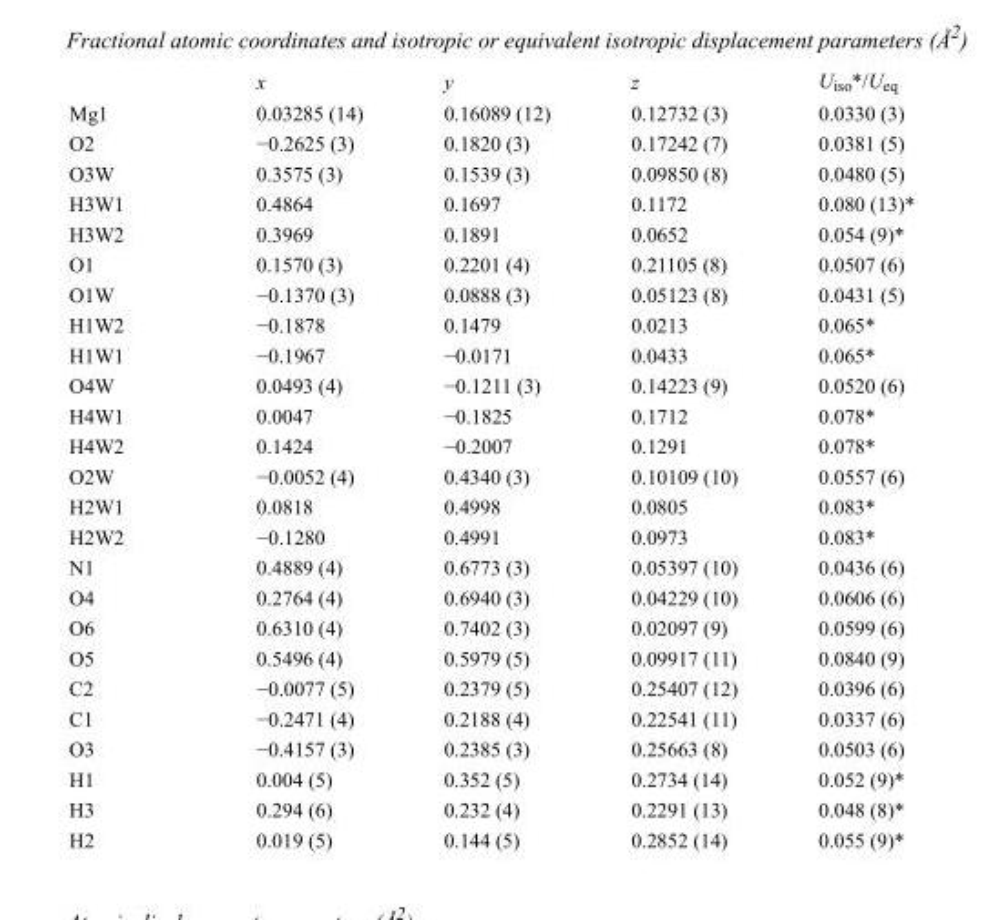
<table><thead><tr><td></td><td>x</td><td>y</td><td>z</td><td>U<sub>iso</sub>*/U<sub>eq</sub></td></tr></thead><tbody><tr><td>Mg1</td><td>0.03285 (14)</td><td>0.16089 (12)</td><td>0.12732 (3)</td><td>0.0330 (3)</td></tr><tr><td>O2</td><td>−0.2625 (3)</td><td>0.1820 (3)</td><td>0.17242 (7)</td><td>0.0381 (5)</td></tr><tr><td>O3W</td><td>0.3575 (3)</td><td>0.1539 (3)</td><td>0.09850 (8)</td><td>0.0480 (5)</td></tr><tr><td>H3W1</td><td>0.4864</td><td>0.1697</td><td>0.1172</td><td>0.080 (13)*</td></tr><tr><td>H3W2</td><td>0.3969</td><td>0.1891</td><td>0.0652</td><td>0.054 (9)*</td></tr><tr><td>O1</td><td>0.1570 (3)</td><td>0.2201 (4)</td><td>0.21105 (8)</td><td>0.0507 (6)</td></tr><tr><td>O1W</td><td>−0.1370 (3)</td><td>0.0888 (3)</td><td>0.05123 (8)</td><td>0.0431 (5)</td></tr><tr><td>H1W2</td><td>−0.1878</td><td>0.1479</td><td>0.0213</td><td>0.065*</td></tr><tr><td>H1W1</td><td>−0.1967</td><td>−0.0171</td><td>0.0433</td><td>0.065*</td></tr><tr><td>O4W</td><td>0.0493 (4)</td><td>−0.1211 (3)</td><td>0.14223 (9)</td><td>0.0520 (6)</td></tr><tr><td>H4W1</td><td>0.0047</td><td>−0.1825</td><td>0.1712</td><td>0.078*</td></tr><tr><td>H4W2</td><td>0.1424</td><td>−0.2007</td><td>0.1291</td><td>0.078*</td></tr><tr><td>O2W</td><td>−0.0052 (4)</td><td>0.4340 (3)</td><td>0.10109 (10)</td><td>0.0557 (6)</td></tr><tr><td>H2W1</td><td>0.0818</td><td>0.4998</td><td>0.0805</td><td>0.083*</td></tr><tr><td>H2W2</td><td>−0.1280</td><td>0.4991</td><td>0.0973</td><td>0.083*</td></tr><tr><td>N1</td><td>0.4889 (4)</td><td>0.6773 (3)</td><td>0.05397 (10)</td><td>0.0436 (6)</td></tr><tr><td>O4</td><td>0.2764 (4)</td><td>0.6940 (3)</td><td>0.04229 (10)</td><td>0.0606 (6)</td></tr><tr><td>O6</td><td>0.6310 (4)</td><td>0.7402 (3)</td><td>0.02097 (9)</td><td>0.0599 (6)</td></tr><tr><td>O5</td><td>0.5496 (4)</td><td>0.5979 (5)</td><td>0.09917 (11)</td><td>0.0840 (9)</td></tr><tr><td>C2</td><td>−0.0077 (5)</td><td>0.2379 (5)</td><td>0.25407 (12)</td><td>0.0396 (6)</td></tr><tr><td>C1</td><td>−0.2471 (4)</td><td>0.2188 (4)</td><td>0.22541 (11)</td><td>0.0337 (6)</td></tr><tr><td>O3</td><td>−0.4157 (3)</td><td>0.2385 (3)</td><td>0.25663 (8)</td><td>0.0503 (6)</td></tr><tr><td>H1</td><td>0.004 (5)</td><td>0.352 (5)</td><td>0.2734 (14)</td><td>0.052 (9)*</td></tr><tr><td>H3</td><td>0.294 (6)</td><td>0.232 (4)</td><td>0.2291 (13)</td><td>0.048 (8)*</td></tr><tr><td>H2</td><td>0.019 (5)</td><td>0.144 (5)</td><td>0.2852 (14)</td><td>0.055 (9)*</td></tr></tbody></table>